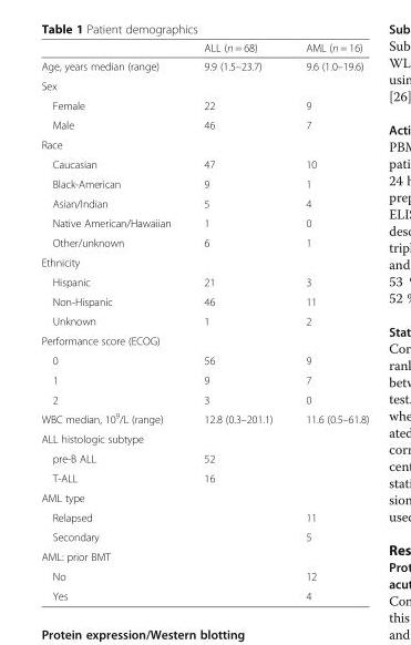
<table><thead><tr><td></td><td>ALL (n = 68)</td><td>AML (n = 16)</td></tr></thead><tbody><tr><td>Age, years median (range)</td><td>9.9 (1.5–23.7)</td><td>9.6 (1.0–19.6)</td></tr><tr><td colspan="3">Sex</td></tr><tr><td>Female</td><td>22</td><td>9</td></tr><tr><td>Male</td><td>46</td><td>7</td></tr><tr><td colspan="3">Race</td></tr><tr><td>Caucasian</td><td>47</td><td>10</td></tr><tr><td>Black-American</td><td>9</td><td>1</td></tr><tr><td>Asian/Indian</td><td>5</td><td>4</td></tr><tr><td>Native American/Hawaiian</td><td>1</td><td>0</td></tr><tr><td>Other/unknown</td><td>6</td><td>1</td></tr><tr><td colspan="3">Ethnicity</td></tr><tr><td>Hispanic</td><td>21</td><td>3</td></tr><tr><td>Non-Hispanic</td><td>46</td><td>11</td></tr><tr><td>Unknown</td><td>1</td><td>2</td></tr><tr><td colspan="3">Performance score (ECOG)</td></tr><tr><td>0</td><td>56</td><td>9</td></tr><tr><td>1</td><td>9</td><td>7</td></tr><tr><td>2</td><td>3</td><td>0</td></tr><tr><td>WBC median, 10<sup>9</sup>/L (range)</td><td>12.8 (0.3–201.1)</td><td>11.6 (0.5–61.8)</td></tr><tr><td colspan="3">ALL histologic subtype</td></tr><tr><td>pre-B ALL</td><td>52</td><td></td></tr><tr><td>T-ALL</td><td>16</td><td></td></tr><tr><td colspan="3">AML type</td></tr><tr><td>Relapsed</td><td></td><td>11</td></tr><tr><td>Secondary</td><td></td><td>5</td></tr><tr><td colspan="3">AML: prior BMT</td></tr><tr><td>No</td><td></td><td>12</td></tr><tr><td>Yes</td><td></td><td>4</td></tr></tbody></table>